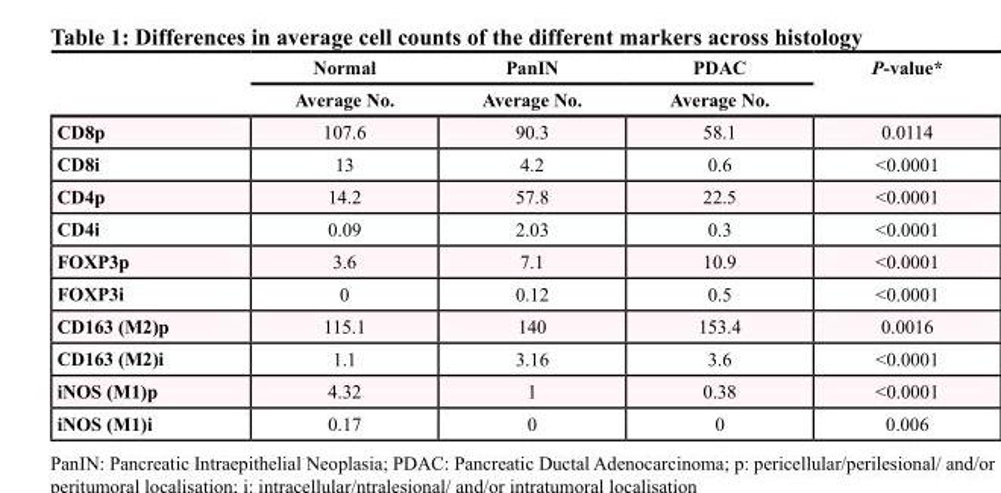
<table><thead><tr><td rowspan="2"></td><td rowspan="2">Normal Average No.</td><td rowspan="2">PanIN Average No.</td><td rowspan="2">PDAC Average No.</td><td rowspan="2">P-value*</td></tr><tr></tr></thead><tbody><tr><td>CD8p</td><td>107.6</td><td>90.3</td><td>58.1</td><td>0.0114</td></tr><tr><td>CD8i</td><td>13</td><td>4.2</td><td>0.6</td><td>&lt;0.0001</td></tr><tr><td>CD4p</td><td>14.2</td><td>57.8</td><td>22.5</td><td>&lt;0.0001</td></tr><tr><td>CD4i</td><td>0.09</td><td>2.03</td><td>0.3</td><td>&lt;0.0001</td></tr><tr><td>FOXP3p</td><td>3.6</td><td>7.1</td><td>10.9</td><td>&lt;0.0001</td></tr><tr><td>FOXP3i</td><td>0</td><td>0.12</td><td>0.5</td><td>&lt;0.0001</td></tr><tr><td>CD163 (M2)p</td><td>115.1</td><td>140</td><td>153.4</td><td>0.0016</td></tr><tr><td>CD163 (M2)i</td><td>1.1</td><td>3.16</td><td>3.6</td><td>&lt;0.0001</td></tr><tr><td>iNOS (M1)p</td><td>4.32</td><td>1</td><td>0.38</td><td>&lt;0.0001</td></tr><tr><td>iNOS (M1)i</td><td>0.17</td><td>0</td><td>0</td><td>0.006</td></tr></tbody></table>